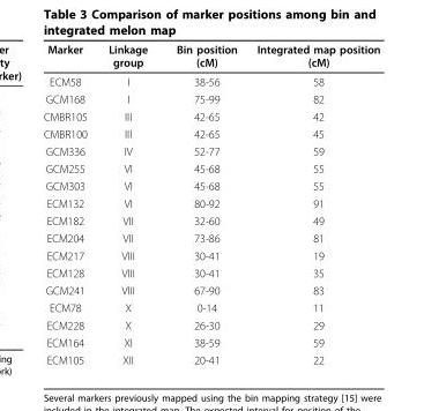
<table><thead><tr><td>Marker</td><td>Linkage group</td><td>Bin position (cM)</td><td>Integrated map position (cM)</td></tr></thead><tbody><tr><td>ECM58</td><td>I</td><td>38-56</td><td>58</td></tr><tr><td>GCM168</td><td>I</td><td>75-99</td><td>82</td></tr><tr><td>CMBR105</td><td>III</td><td>42-65</td><td>42</td></tr><tr><td>CMBR100</td><td>III</td><td>42-65</td><td>45</td></tr><tr><td>GCM336</td><td>IV</td><td>52-77</td><td>59</td></tr><tr><td>GCM255</td><td>VI</td><td>45-68</td><td>55</td></tr><tr><td>GCM303</td><td>VI</td><td>45-68</td><td>55</td></tr><tr><td>ECM132</td><td>VI</td><td>80-92</td><td>91</td></tr><tr><td>ECM182</td><td>VII</td><td>32-60</td><td>49</td></tr><tr><td>ECM204</td><td>VII</td><td>73-86</td><td>81</td></tr><tr><td>ECM217</td><td>VIII</td><td>30-41</td><td>19</td></tr><tr><td>ECM128</td><td>VIII</td><td>30-41</td><td>35</td></tr><tr><td>GCM241</td><td>VIII</td><td>67-90</td><td>83</td></tr><tr><td>ECM78</td><td>X</td><td>0-14</td><td>11</td></tr><tr><td>ECM228</td><td>X</td><td>26-30</td><td>29</td></tr><tr><td>ECM164</td><td>XI</td><td>38-59</td><td>59</td></tr><tr><td>ECM105</td><td>XII</td><td>20-41</td><td>22</td></tr></tbody></table>